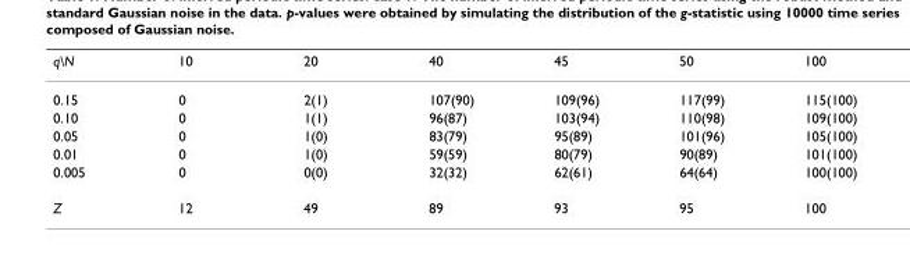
<table><thead><tr><td>q\N</td><td>10</td><td>20</td><td>40</td><td>45</td><td>50</td><td>100</td></tr></thead><tbody><tr><td>0.15</td><td>0</td><td>2(1)</td><td>107(90)</td><td>109(96)</td><td>117(99)</td><td>115(100)</td></tr><tr><td>0.10</td><td>0</td><td>1(1)</td><td>96(87)</td><td>103(94)</td><td>110(98)</td><td>109(100)</td></tr><tr><td>0.05</td><td>0</td><td>1(0)</td><td>83(79)</td><td>95(89)</td><td>101(96)</td><td>105(100)</td></tr><tr><td>0.01</td><td>0</td><td>1(0)</td><td>59(59)</td><td>80(79)</td><td>90(89)</td><td>101(100)</td></tr><tr><td>0.005</td><td>0</td><td>0(0)</td><td>32(32)</td><td>62(61)</td><td>64(64)</td><td>100(100)</td></tr><tr><td>Z</td><td>12</td><td>49</td><td>89</td><td>93</td><td>95</td><td>100</td></tr></tbody></table>